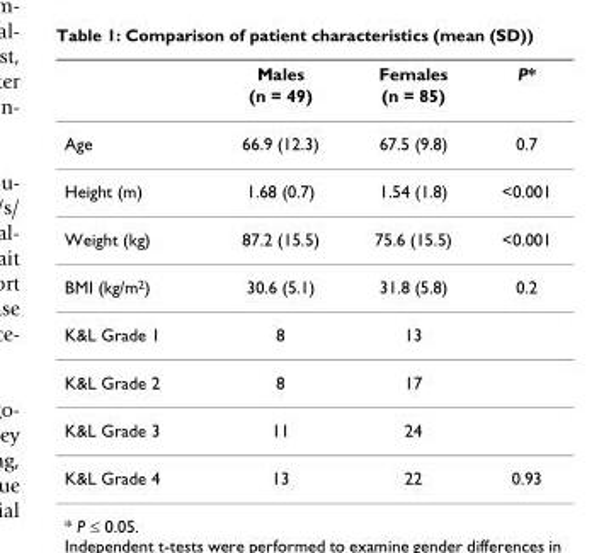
<table><thead><tr><td rowspan="2"></td><td rowspan="2">Males (n = 49)</td><td rowspan="2">Females (n = 85)</td><td rowspan="2">P*</td></tr><tr></tr></thead><tbody><tr><td>Age</td><td>66.9 (12.3)</td><td>67.5 (9.8)</td><td>0.7</td></tr><tr><td>Height (m)</td><td>1.68 (0.7)</td><td>1.54 (1.8)</td><td>&lt;0.001</td></tr><tr><td>Weight (kg)</td><td>87.2 (15.5)</td><td>75.6 (15.5)</td><td>&lt;0.001</td></tr><tr><td>BMI (kg/m<sup>2</sup>)</td><td>30.6 (5.1)</td><td>31.8 (5.8)</td><td>0.2</td></tr><tr><td>K&amp;L Grade 1</td><td>8</td><td>13</td><td></td></tr><tr><td>K&amp;L Grade 2</td><td>8</td><td>17</td><td></td></tr><tr><td>K&amp;L Grade 3</td><td>11</td><td>24</td><td></td></tr><tr><td>K&amp;L Grade 4</td><td>13</td><td>22</td><td>0.93</td></tr></tbody></table>